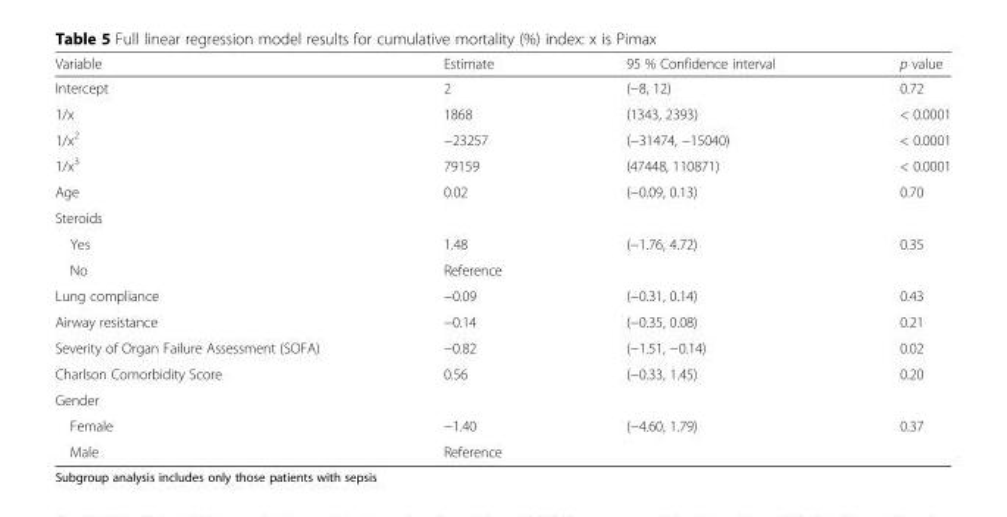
<table><thead><tr><td>Variable</td><td>Estimate</td><td>95 % Confidence interval</td><td>p value</td></tr></thead><tbody><tr><td>Intercept</td><td>2</td><td>(−8, 12)</td><td>0.72</td></tr><tr><td>1/x</td><td>1868</td><td>(1343, 2393)</td><td>&lt; 0.0001</td></tr><tr><td>1/x<sup>2</sup></td><td>−23257</td><td>(−31474, −15040)</td><td>&lt; 0.0001</td></tr><tr><td>1/x<sup>3</sup></td><td>79159</td><td>(47448, 110871)</td><td>&lt; 0.0001</td></tr><tr><td>Age</td><td>0.02</td><td>(−0.09, 0.13)</td><td>0.70</td></tr><tr><td colspan="4">Steroids</td></tr><tr><td>Yes</td><td>1.48</td><td rowspan="2">(−1.76, 4.72)</td><td rowspan="2">0.35</td></tr><tr><td>No</td><td>Reference</td></tr><tr><td>Lung compliance</td><td>−0.09</td><td>(−0.31, 0.14)</td><td>0.43</td></tr><tr><td>Airway resistance</td><td>−0.14</td><td>(−0.35, 0.08)</td><td>0.21</td></tr><tr><td>Severity of Organ Failure Assessment (SOFA)</td><td>−0.82</td><td>(−1.51, −0.14)</td><td>0.02</td></tr><tr><td>Charlson Comorbidity Score</td><td>0.56</td><td>(−0.33, 1.45)</td><td>0.20</td></tr><tr><td colspan="4">Gender</td></tr><tr><td>Female</td><td>−1.40</td><td rowspan="2">(−4.60, 1.79)</td><td rowspan="2">0.37</td></tr><tr><td>Male</td><td>Reference</td></tr></tbody></table>